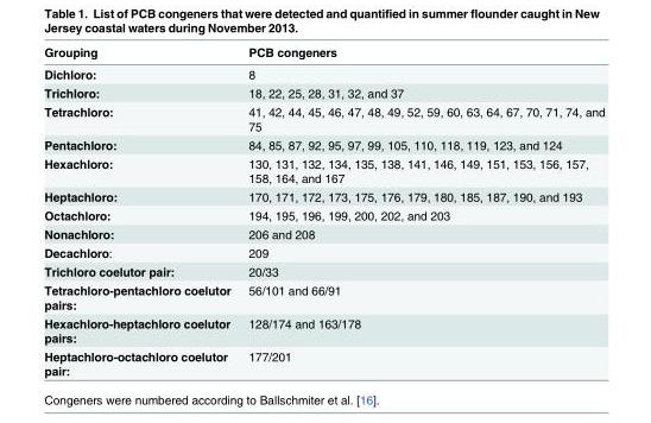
<table><thead><tr><td>Grouping</td><td>PCB congeners</td></tr></thead><tbody><tr><td>Dichloro:</td><td>8</td></tr><tr><td>Trichloro:</td><td>18, 22, 25, 28, 31, 32, and 37</td></tr><tr><td>Tetrachloro:</td><td>41, 42, 44, 45, 46, 47, 48, 49, 52, 59, 60, 63, 64, 67, 70, 71, 74, and 75</td></tr><tr><td>Pentachloro:</td><td>84, 85, 87, 92, 95, 97, 99, 105, 110, 118, 119, 123, and 124</td></tr><tr><td>Hexachloro:</td><td>130, 131, 132, 134, 135, 138, 141, 146, 149, 151, 153, 156, 157, 158, 164, and 167</td></tr><tr><td>Heptachloro:</td><td>170, 171, 172, 173, 175, 176, 179, 180, 185, 187, 190, and 193</td></tr><tr><td>Octachloro:</td><td>194, 195, 196, 199, 200, 202, and 203</td></tr><tr><td>Nonachloro:</td><td>206 and 208</td></tr><tr><td>Decachloro:</td><td>209</td></tr><tr><td>Trichloro coelutor pair:</td><td>20/33</td></tr><tr><td>Tetrachloro-pentachloro coelutor pairs:</td><td>56/101 and 66/91</td></tr><tr><td>Hexachloro-heptachloro coelutor pairs:</td><td>128/174 and 163/178</td></tr><tr><td>Heptachloro-octachloro coelutor pair:</td><td>177/201</td></tr></tbody></table>